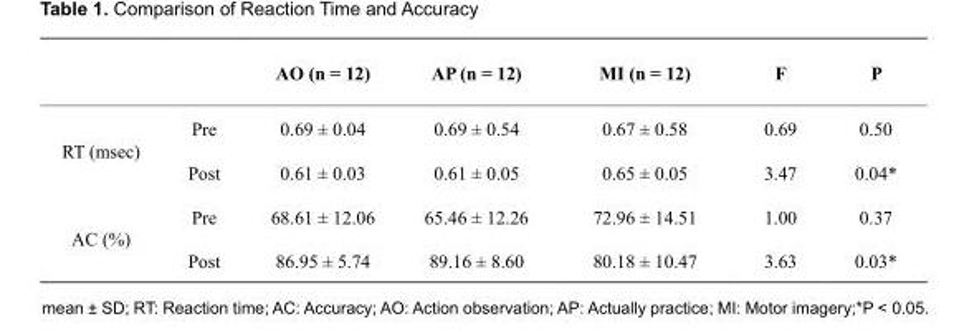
<table><thead><tr><td></td><td></td><td>AO (n = 12)</td><td>AP (n = 12)</td><td>MI (n = 12)</td><td>F</td><td>P</td></tr></thead><tbody><tr><td rowspan="2">RT (msec)</td><td>Pre</td><td>0.69 ± 0.04</td><td>0.69 ± 0.54</td><td>0.67 ± 0.58</td><td>0.69</td><td>0.50</td></tr><tr><td>Post</td><td>0.61 ± 0.03</td><td>0.61 ± 0.05</td><td>0.65 ± 0.05</td><td>3.47</td><td>0.04*</td></tr><tr><td rowspan="2">AC (%)</td><td>Pre</td><td>68.61 ± 12.06</td><td>65.46 ± 12.26</td><td>72.96 ± 14.51</td><td>1.00</td><td>0.37</td></tr><tr><td>Post</td><td>86.95 ± 5.74</td><td>89.16 ± 8.60</td><td>80.18 ± 10.47</td><td>3.63</td><td>0.03*</td></tr></tbody></table>